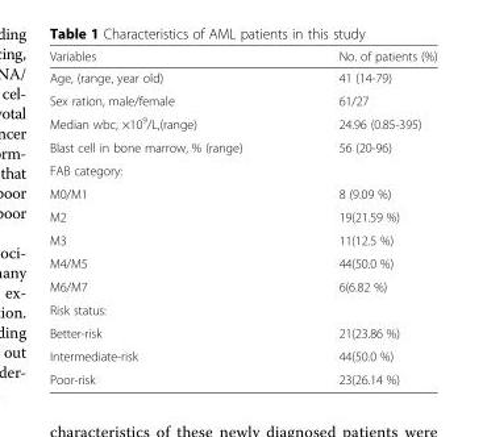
<table><thead><tr><td>Variables</td><td>No. of patients (%)</td></tr></thead><tbody><tr><td>Age, (range, year old)</td><td>41 (14-79)</td></tr><tr><td>Sex ration, male/female</td><td>61/27</td></tr><tr><td>Median wbc, ×109/L,(range)</td><td>24.96 (0.85-395)</td></tr><tr><td>Blast cell in bone marrow, % (range)</td><td>56 (20-96)</td></tr><tr><td colspan="2">FAB category:</td></tr><tr><td>M0/M1</td><td>8 (9.09 %)</td></tr><tr><td>M2</td><td>19(21.59 %)</td></tr><tr><td>M3</td><td>11(12.5 %)</td></tr><tr><td>M4/M5</td><td>44(50.0 %)</td></tr><tr><td>M6/M7</td><td>6(6.82 %)</td></tr><tr><td colspan="2">Risk status:</td></tr><tr><td>Better-risk</td><td>21(23.86 %)</td></tr><tr><td>Intermediate-risk</td><td>44(50.0 %)</td></tr><tr><td>Poor-risk</td><td>23(26.14 %)</td></tr></tbody></table>